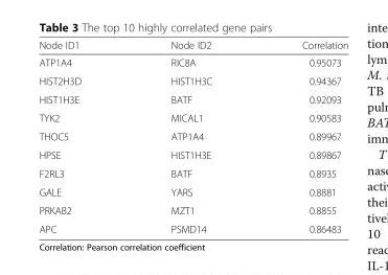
<table><thead><tr><td>Node ID1</td><td>Node ID2</td><td>Correlation</td></tr></thead><tbody><tr><td>ATP1A4</td><td>RIC8A</td><td>0.95073</td></tr><tr><td>HIST2H3D</td><td>HIST1H3C</td><td>0.94367</td></tr><tr><td>HIST1H3E</td><td>BATF</td><td>0.92093</td></tr><tr><td>TYK2</td><td>MICAL1</td><td>0.90583</td></tr><tr><td>THOC5</td><td>ATP1A4</td><td>0.89967</td></tr><tr><td>HPSE</td><td>HIST1H3E</td><td>0.89867</td></tr><tr><td>F2RL3</td><td>BATF</td><td>0.8935</td></tr><tr><td>GALE</td><td>YARS</td><td>0.8881</td></tr><tr><td>PRKAB2</td><td>MZT1</td><td>0.8855</td></tr><tr><td>APC</td><td>PSMD14</td><td>0.86483</td></tr></tbody></table>